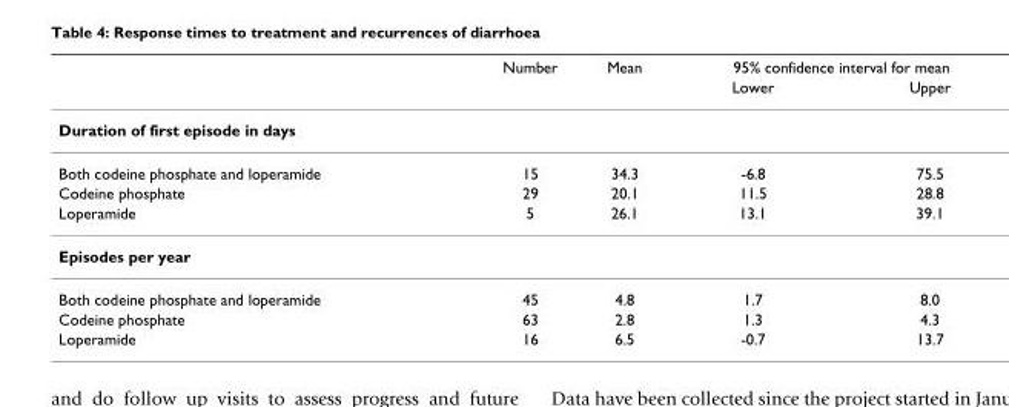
<table><thead><tr><td rowspan="2"></td><td rowspan="2">Number</td><td rowspan="2">Mean</td><td colspan="2">95% confidence interval for mean</td></tr><tr><td>Lower</td><td>Upper</td></tr></thead><tbody><tr><td colspan="5">Duration of first episode in days</td></tr><tr><td>Both codeine phosphate and loperamide</td><td>15</td><td>34.3</td><td>-6.8</td><td>75.5</td></tr><tr><td>Codeine phosphate</td><td>29</td><td>20.1</td><td>11.5</td><td>28.8</td></tr><tr><td>Loperamide</td><td>5</td><td>26.1</td><td>13.1</td><td>39.1</td></tr><tr><td colspan="5">Episodes per year</td></tr><tr><td>Both codeine phosphate and loperamide</td><td>45</td><td>4.8</td><td>1.7</td><td>8.0</td></tr><tr><td>Codeine phosphate</td><td>63</td><td>2.8</td><td>1.3</td><td>4.3</td></tr><tr><td>Loperamide</td><td>16</td><td>6.5</td><td>-0.7</td><td>13.7</td></tr></tbody></table>